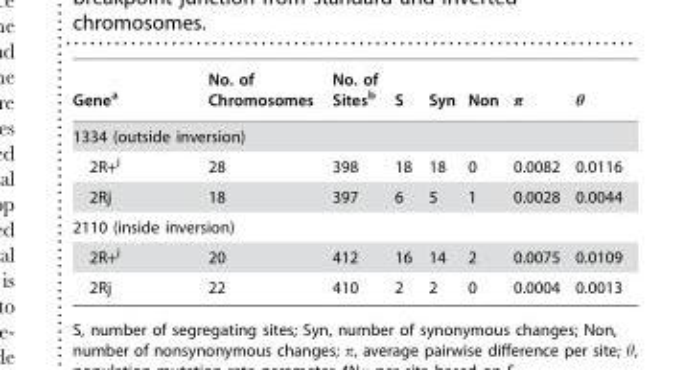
<table><thead><tr><td>Gene<sup>a</sup></td><td>No. of Chromosomes</td><td>No. of Sites<sup>b</sup></td><td>S</td><td>Syn</td><td>Non</td><td>π</td><td>θ</td></tr></thead><tbody><tr><td colspan="8">1334 (outside inversion)</td></tr><tr><td>2R+<sup>j</sup></td><td>28</td><td>398</td><td>18</td><td>18</td><td>0</td><td>0.0082</td><td>0.0116</td></tr><tr><td>2Rj</td><td>18</td><td>397</td><td>6</td><td>5</td><td>1</td><td>0.0028</td><td>0.0044</td></tr><tr><td colspan="8">2110 (inside inversion)</td></tr><tr><td>2R+<sup>j</sup></td><td>20</td><td>412</td><td>16</td><td>14</td><td>2</td><td>0.0075</td><td>0.0109</td></tr><tr><td>2Rj</td><td>22</td><td>410</td><td>2</td><td>2</td><td>0</td><td>0.0004</td><td>0.0013</td></tr></tbody></table>